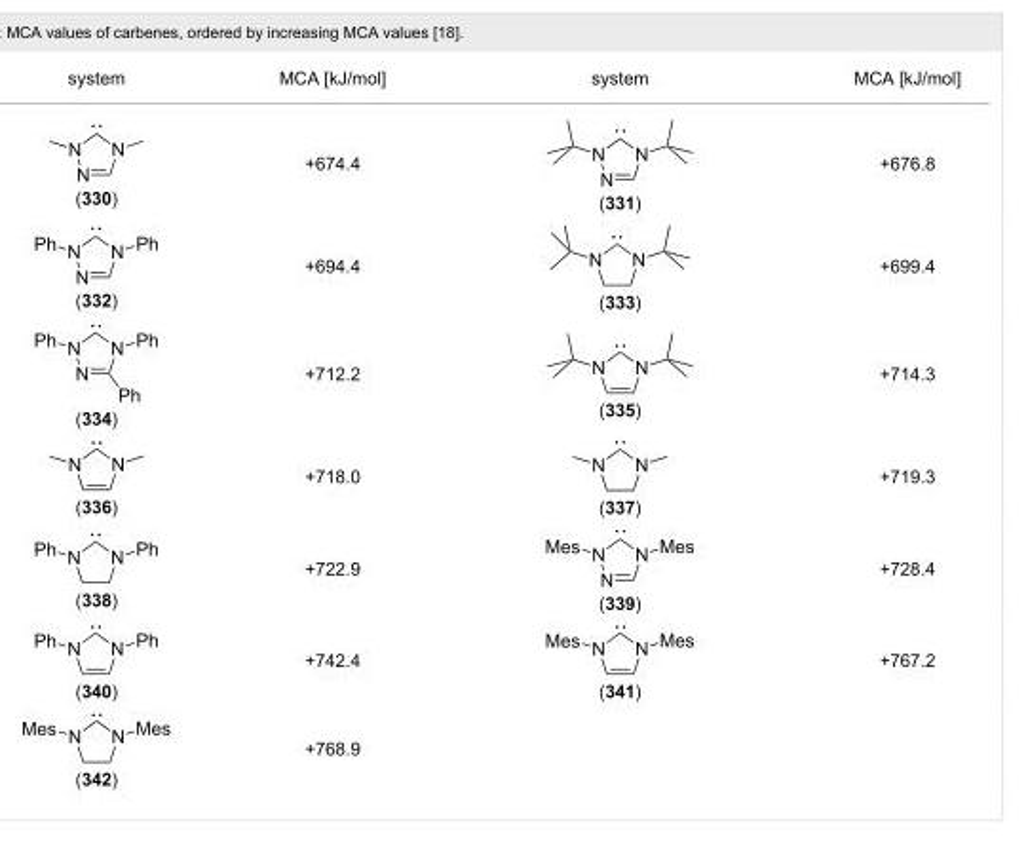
<table><tbody><tr><td>system</td><td>MCA [kJ/mol]</td><td>system</td><td>MCA [kJ/mol]</td></tr><tr><td>(330)</td><td>+674.4</td><td>(331)</td><td>+676.8</td></tr><tr><td>(332)</td><td>+694.4</td><td>(333)</td><td>+699.4</td></tr><tr><td>(334)</td><td>+712.2</td><td>(335)</td><td>+714.3</td></tr><tr><td>(336)</td><td>+718.0</td><td>(337)</td><td>+719.3</td></tr><tr><td>(338)</td><td>+722.9</td><td>(339)</td><td>+728.4</td></tr><tr><td>(340)</td><td>+742.4</td><td>(341)</td><td>+767.2</td></tr><tr><td>(342)</td><td>+768.9</td><td></td><td></td></tr></tbody></table>